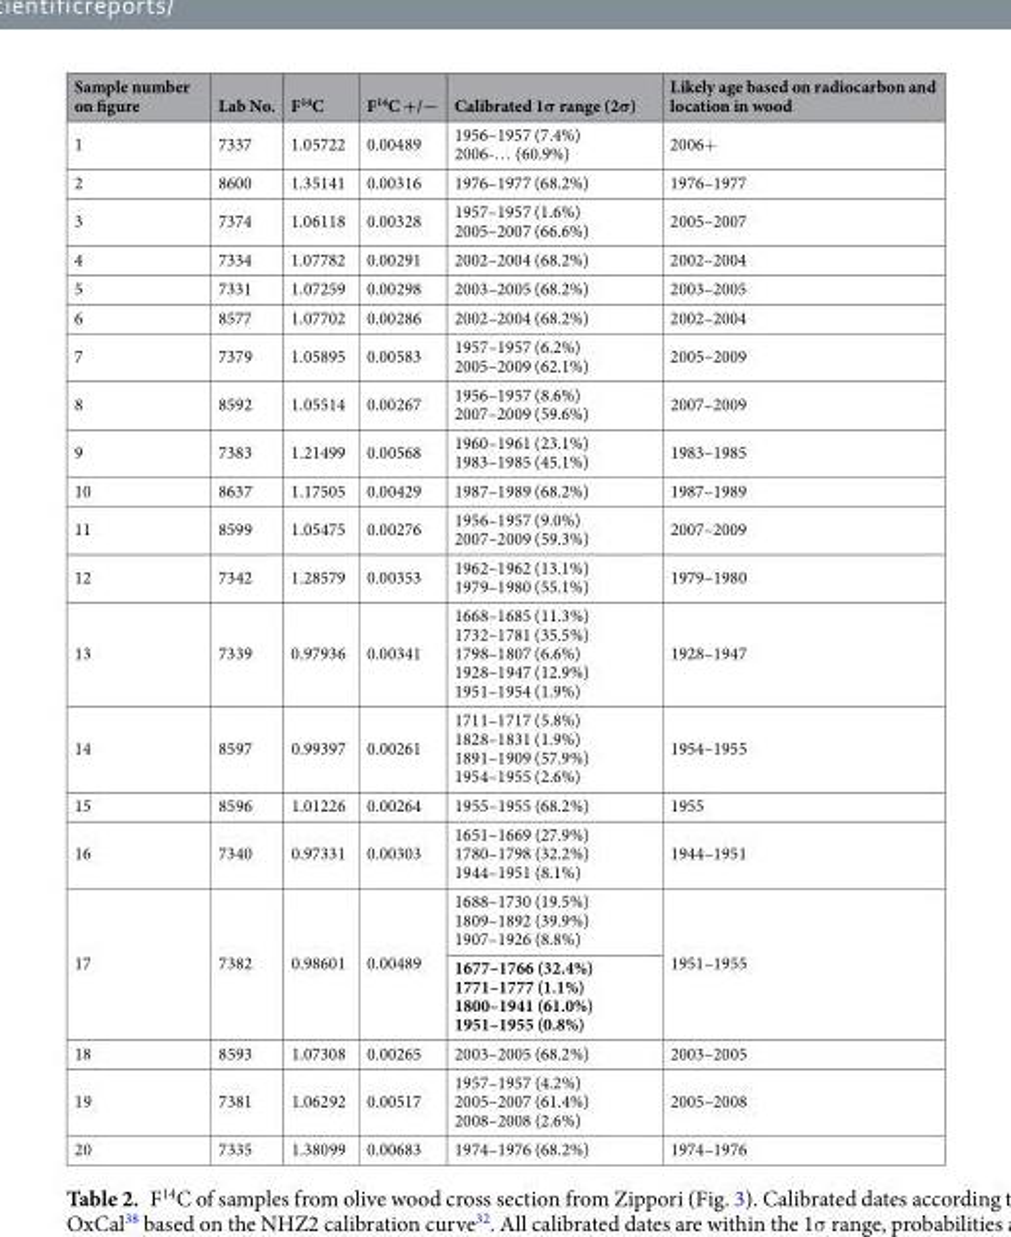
<table><thead><tr><td>Sample number on figure</td><td>Lab No.</td><td>F<sup>14</sup>C</td><td>F<sup>14</sup>C +/−</td><td>Calibrated 1σ range (2σ)</td><td>Likely age based on radiocarbon and location in wood</td></tr></thead><tbody><tr><td>1</td><td>7337</td><td>1.05722</td><td>0.00489</td><td>1956–1957 (7.4%) 2006-… (60.9%)</td><td>2006+</td></tr><tr><td>2</td><td>8600</td><td>1.35141</td><td>0.00316</td><td>1976–1977 (68.2%)</td><td>1976–1977</td></tr><tr><td>3</td><td>7374</td><td>1.06118</td><td>0.00328</td><td>1957–1957 (1.6%) 2005–2007 (66.6%)</td><td>2005–2007</td></tr><tr><td>4</td><td>7334</td><td>1.07782</td><td>0.00291</td><td>2002–2004 (68.2%)</td><td>2002–2004</td></tr><tr><td>5</td><td>7331</td><td>1.07259</td><td>0.00298</td><td>2003–2005 (68.2%)</td><td>2003–2005</td></tr><tr><td>6</td><td>8577</td><td>1.07702</td><td>0.00286</td><td>2002–2004 (68.2%)</td><td>2002–2004</td></tr><tr><td>7</td><td>7379</td><td>1.05895</td><td>0.00583</td><td>1957–1957 (6.2%) 2005–2009 (62.1%)</td><td>2005–2009</td></tr><tr><td>8</td><td>8592</td><td>1.05514</td><td>0.00267</td><td>1956–1957 (8.6%) 2007–2009 (59.6%)</td><td>2007–2009</td></tr><tr><td>9</td><td>7383</td><td>1.21499</td><td>0.00568</td><td>1960–1961 (23.1%) 1983–1985 (45.1%)</td><td>1983–1985</td></tr><tr><td>10</td><td>8637</td><td>1.17505</td><td>0.00429</td><td>1987–1989 (68.2%)</td><td>1987–1989</td></tr><tr><td>11</td><td>8599</td><td>1.05475</td><td>0.00276</td><td>1956–1957 (9.0%) 2007–2009 (59.3%)</td><td>2007–2009</td></tr><tr><td>12</td><td>7342</td><td>1.28579</td><td>0.00353</td><td>1962–1962 (13.1%) 1979–1980 (55.1%)</td><td>1979–1980</td></tr><tr><td>13</td><td>7339</td><td>0.97936</td><td>0.00341</td><td>1668–1685 (11.3%) 1732–1781 (35.5%) 1798–1807 (6.6%) 1928–1947 (12.9%) 1951–1954 (1.9%)</td><td>1928–1947</td></tr><tr><td>14</td><td>8597</td><td>0.99397</td><td>0.00261</td><td>1711–1717 (5.8%) 1828–1831 (1.9%) 1891–1909 (57.9%) 1954–1955 (2.6%)</td><td>1954–1955</td></tr><tr><td>15</td><td>8596</td><td>1.01226</td><td>0.00264</td><td>1955–1955 (68.2%)</td><td>1955</td></tr><tr><td>16</td><td>7340</td><td>0.97331</td><td>0.00303</td><td>1651–1669 (27.9%) 1780–1798 (32.2%) 1944–1951 (8.1%)</td><td>1944–1951</td></tr><tr><td rowspan="2">17</td><td rowspan="2">7382</td><td rowspan="2">0.98601</td><td rowspan="2">0.00489</td><td>1688–1730 (19.5%) 1809–1892 (39.9%) 1907–1926 (8.8%)</td><td rowspan="2">1951–1955</td></tr><tr><td>1677–1766 (32.4%) 1771–1777 (1.1%) 1800–1941 (61.0%) 1951–1955 (0.8%)</td></tr><tr><td>18</td><td>8593</td><td>1.07308</td><td>0.00265</td><td>2003–2005 (68.2%)</td><td>2003–2005</td></tr><tr><td>19</td><td>7381</td><td>1.06292</td><td>0.00517</td><td>1957–1957 (4.2%) 2005–2007 (61.4%) 2008–2008 (2.6%)</td><td>2005–2008</td></tr><tr><td>20</td><td>7335</td><td>1.38099</td><td>0.00683</td><td>1974–1976 (68.2%)</td><td>1974–1976</td></tr></tbody></table>